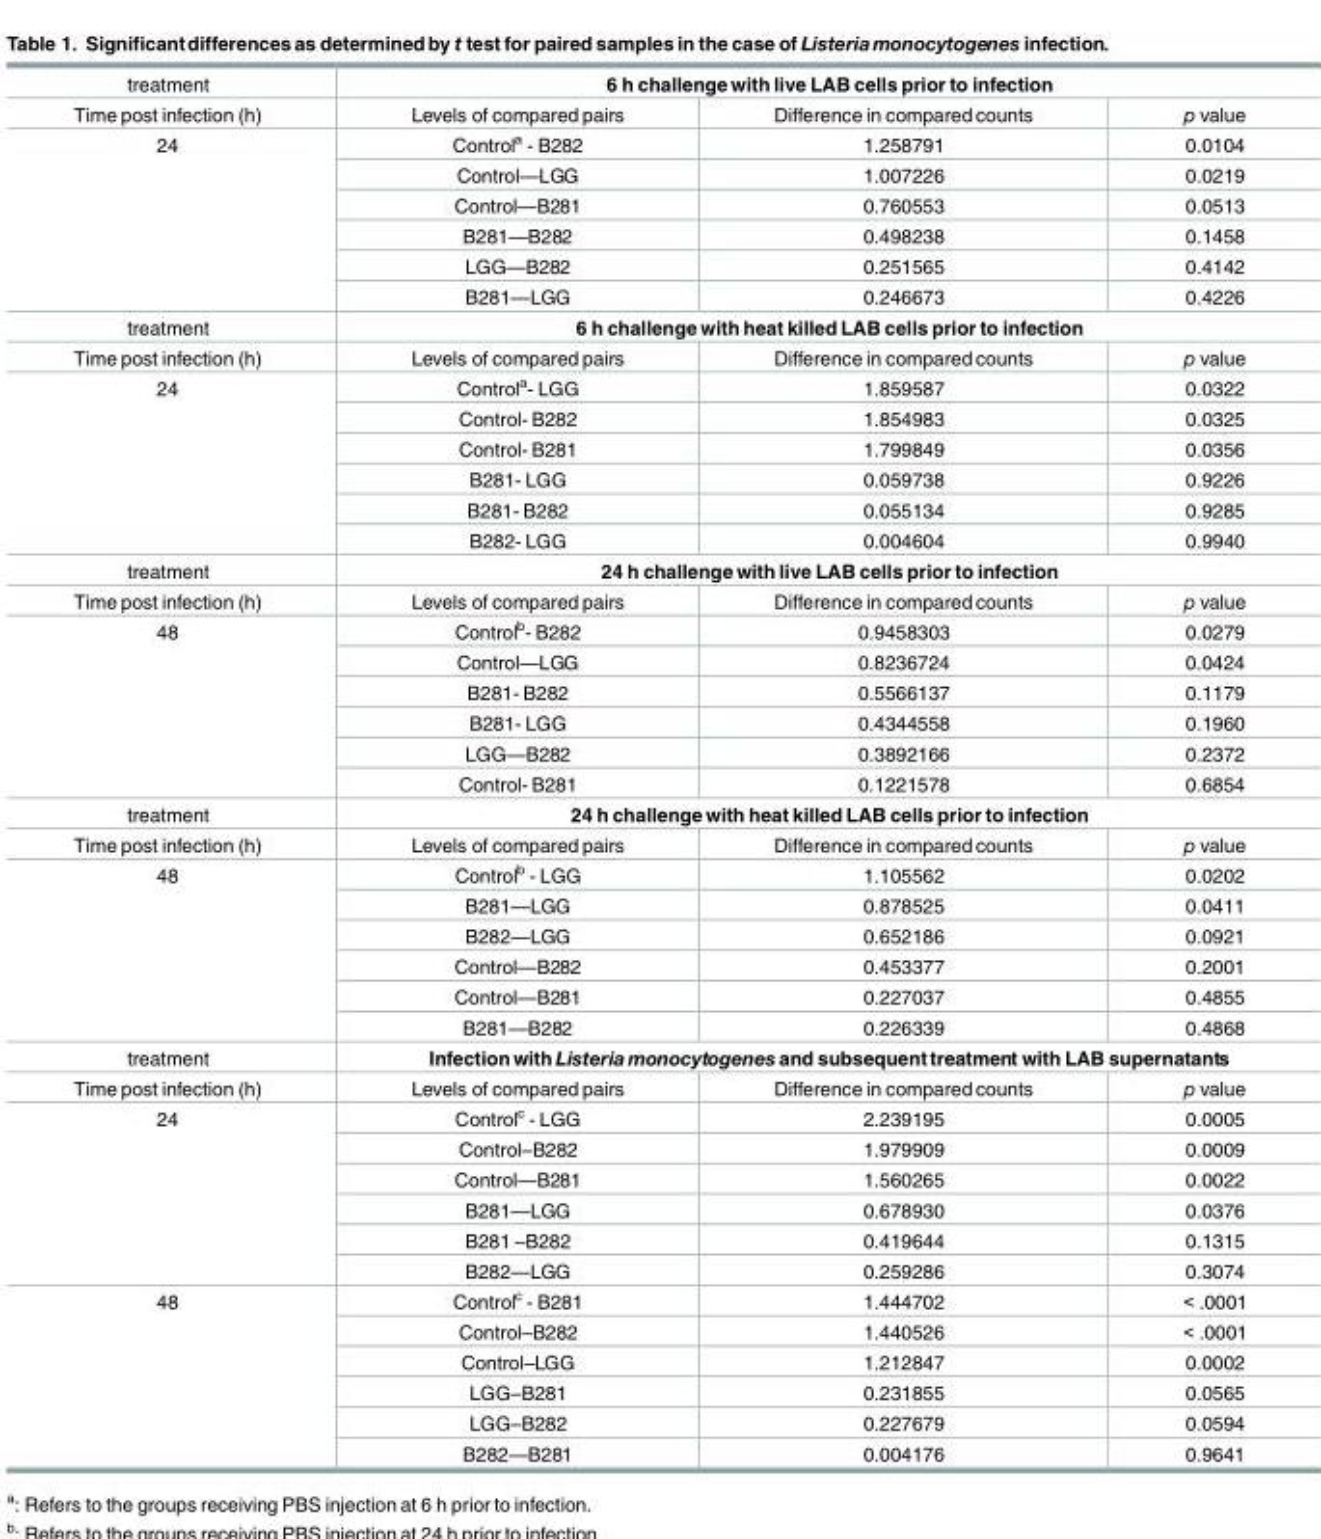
<table><tbody><tr><td>treatment</td><td colspan="3">6 h challenge with live LAB cells prior to infection</td></tr><tr><td>Time post infection (h)</td><td>Levels of compared pairs</td><td>Difference in compared counts</td><td>p value</td></tr><tr><td rowspan="6">24</td><td>Control<sup>a</sup> - B282</td><td>1.258791</td><td>0.0104</td></tr><tr><td>Control—LGG</td><td>1.007226</td><td>0.0219</td></tr><tr><td>Control—B281</td><td>0.760553</td><td>0.0513</td></tr><tr><td>B281—B282</td><td>0.498238</td><td>0.1458</td></tr><tr><td>LGG—B282</td><td>0.251565</td><td>0.4142</td></tr><tr><td>B281—LGG</td><td>0.246673</td><td>0.4226</td></tr><tr><td>treatment</td><td colspan="3">6 h challenge with heat killed LAB cells prior to infection</td></tr><tr><td>Time post infection (h)</td><td>Levels of compared pairs</td><td>Difference in compared counts</td><td>p value</td></tr><tr><td rowspan="6">24</td><td>Control<sup>a</sup>- LGG</td><td>1.859587</td><td>0.0322</td></tr><tr><td>Control- B282</td><td>1.854983</td><td>0.0325</td></tr><tr><td>Control- B281</td><td>1.799849</td><td>0.0356</td></tr><tr><td>B281- LGG</td><td>0.059738</td><td>0.9226</td></tr><tr><td>B281- B282</td><td>0.055134</td><td>0.9285</td></tr><tr><td>B282- LGG</td><td>0.004604</td><td>0.9940</td></tr><tr><td>treatment</td><td colspan="3">24 h challenge with live LAB cells prior to infection</td></tr><tr><td>Time post infection (h)</td><td>Levels of compared pairs</td><td>Difference in compared counts</td><td>p value</td></tr><tr><td rowspan="6">48</td><td>Control<sup>b</sup>- B282</td><td>0.9458303</td><td>0.0279</td></tr><tr><td>Control—LGG</td><td>0.8236724</td><td>0.0424</td></tr><tr><td>B281- B282</td><td>0.5566137</td><td>0.1179</td></tr><tr><td>B281- LGG</td><td>0.4344558</td><td>0.1960</td></tr><tr><td>LGG—B282</td><td>0.3892166</td><td>0.2372</td></tr><tr><td>Control- B281</td><td>0.1221578</td><td>0.6854</td></tr><tr><td>treatment</td><td colspan="3">24 h challenge with heat killed LAB cells prior to infection</td></tr><tr><td>Time post infection (h)</td><td>Levels of compared pairs</td><td>Difference in compared counts</td><td>p value</td></tr><tr><td rowspan="6">48</td><td>Control<sup>b</sup> - LGG</td><td>1.105562</td><td>0.0202</td></tr><tr><td>B281—LGG</td><td>0.878525</td><td>0.0411</td></tr><tr><td>B282—LGG</td><td>0.652186</td><td>0.0921</td></tr><tr><td>Control—B282</td><td>0.453377</td><td>0.2001</td></tr><tr><td>Control—B281</td><td>0.227037</td><td>0.4855</td></tr><tr><td>B281—B282</td><td>0.226339</td><td>0.4868</td></tr><tr><td>treatment</td><td colspan="3">Infection with Listeria monocytogenes and subsequent treatment with LAB supernatants</td></tr><tr><td>Time post infection (h)</td><td>Levels of compared pairs</td><td>Difference in compared counts</td><td>p value</td></tr><tr><td rowspan="6">24</td><td>Control<sup>c</sup> - LGG</td><td>2.239195</td><td>0.0005</td></tr><tr><td>Control–B282</td><td>1.979909</td><td>0.0009</td></tr><tr><td>Control—B281</td><td>1.560265</td><td>0.0022</td></tr><tr><td>B281—LGG</td><td>0.678930</td><td>0.0376</td></tr><tr><td>B281 –B282</td><td>0.419644</td><td>0.1315</td></tr><tr><td>B282—LGG</td><td>0.259286</td><td>0.3074</td></tr><tr><td rowspan="6">48</td><td>Control<sup>c</sup> - B281</td><td>1.444702</td><td>&lt; .0001</td></tr><tr><td>Control–B282</td><td>1.440526</td><td>&lt; .0001</td></tr><tr><td>Control–LGG</td><td>1.212847</td><td>0.0002</td></tr><tr><td>LGG–B281</td><td>0.231855</td><td>0.0565</td></tr><tr><td>LGG–B282</td><td>0.227679</td><td>0.0594</td></tr><tr><td>B282—B281</td><td>0.004176</td><td>0.9641</td></tr></tbody></table>